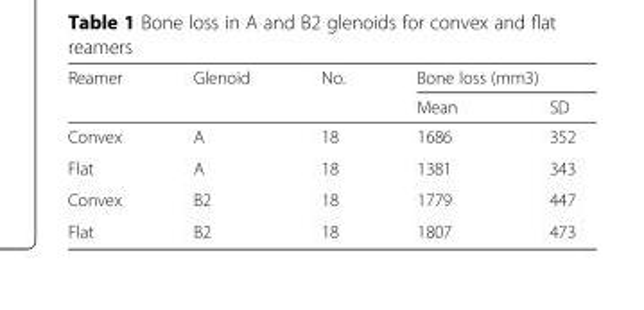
<table><thead><tr><td rowspan="2">Reamer</td><td rowspan="2">Glenoid</td><td rowspan="2">No.</td><td colspan="2">Bone loss (mm3)</td></tr><tr><td>Mean</td><td>SD</td></tr></thead><tbody><tr><td>Convex</td><td>A</td><td>18</td><td>1686</td><td>352</td></tr><tr><td>Flat</td><td>A</td><td>18</td><td>1381</td><td>343</td></tr><tr><td>Convex</td><td>B2</td><td>18</td><td>1779</td><td>447</td></tr><tr><td>Flat</td><td>B2</td><td>18</td><td>1807</td><td>473</td></tr></tbody></table>